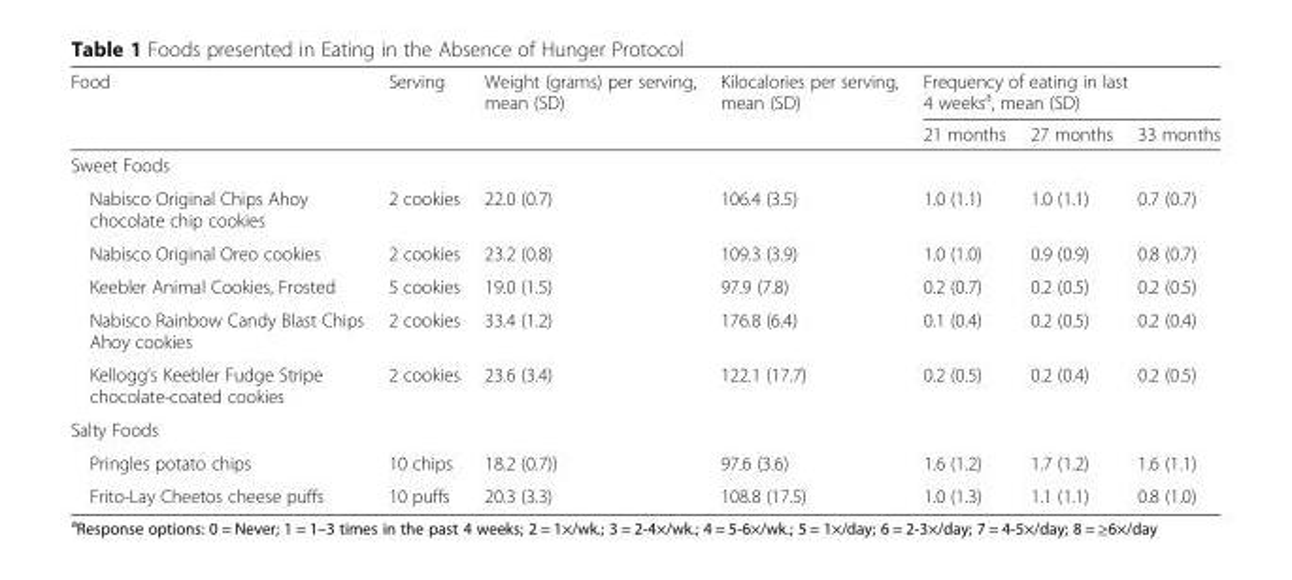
<table><thead><tr><td rowspan="2">Food</td><td rowspan="2">Serving</td><td rowspan="2">Weight (grams) per serving, mean (SD)</td><td rowspan="2">Kilocalories per serving, mean (SD)</td><td colspan="3">Frequency of eating in last 4 weeks<sup>a</sup>, mean (SD)</td></tr><tr><td>21 months</td><td>27 months</td><td>33 months</td></tr></thead><tbody><tr><td colspan="7">Sweet Foods</td></tr><tr><td>Nabisco Original Chips Ahoy chocolate chip cookies</td><td>2 cookies</td><td>22.0 (0.7)</td><td>106.4 (3.5)</td><td>1.0 (1.1)</td><td>1.0 (1.1)</td><td>0.7 (0.7)</td></tr><tr><td>Nabisco Original Oreo cookies</td><td>2 cookies</td><td>23.2 (0.8)</td><td>109.3 (3.9)</td><td>1.0 (1.0)</td><td>0.9 (0.9)</td><td>0.8 (0.7)</td></tr><tr><td>Keebler Animal Cookies, Frosted</td><td>5 cookies</td><td>19.0 (1.5)</td><td>97.9 (7.8)</td><td>0.2 (0.7)</td><td>0.2 (0.5)</td><td>0.2 (0.5)</td></tr><tr><td>Nabisco Rainbow Candy Blast Chips Ahoy cookies</td><td>2 cookies</td><td>33.4 (1.2)</td><td>176.8 (6.4)</td><td>0.1 (0.4)</td><td>0.2 (0.5)</td><td>0.2 (0.4)</td></tr><tr><td>Kellogg’s Keebler Fudge Stripe chocolate-coated cookies</td><td>2 cookies</td><td>23.6 (3.4)</td><td>122.1 (17.7)</td><td>0.2 (0.5)</td><td>0.2 (0.4)</td><td>0.2 (0.5)</td></tr><tr><td colspan="7">Salty Foods</td></tr><tr><td>Pringles potato chips</td><td>10 chips</td><td>18.2 (0.7))</td><td>97.6 (3.6)</td><td>1.6 (1.2)</td><td>1.7 (1.2)</td><td>1.6 (1.1)</td></tr><tr><td>Frito-Lay Cheetos cheese puffs</td><td>10 puffs</td><td>20.3 (3.3)</td><td>108.8 (17.5)</td><td>1.0 (1.3)</td><td>1.1 (1.1)</td><td>0.8 (1.0)</td></tr></tbody></table>